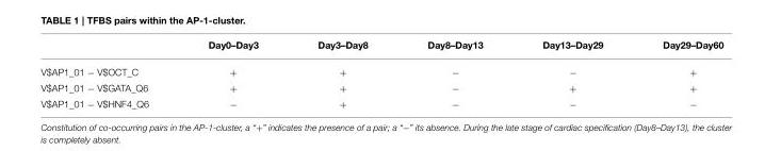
<table><thead><tr><td></td><td>Day0–Day3</td><td>Day3–Day8</td><td>Day8–Day13</td><td>Day13–Day29</td><td>Day29–Day60</td></tr></thead><tbody><tr><td>V$AP1_01 − V$OCT_C</td><td>+</td><td>+</td><td>−</td><td>−</td><td>+</td></tr><tr><td>V$AP1_01 − V$GATA_Q6</td><td>+</td><td>+</td><td>−</td><td>+</td><td>+</td></tr><tr><td>V$AP1_01 − V$HNF4_Q6</td><td>−</td><td>+</td><td>−</td><td>−</td><td>−</td></tr></tbody></table>